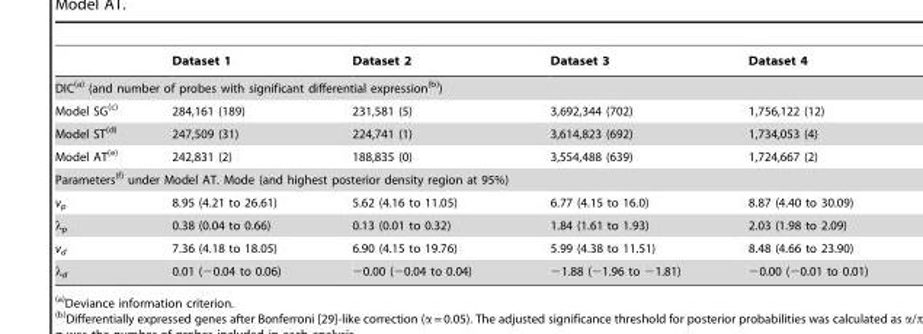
<table><thead><tr><td></td><td>Dataset 1</td><td>Dataset 2</td><td>Dataset 3</td><td>Dataset 4</td></tr></thead><tbody><tr><td colspan="5">DIC(a) (and number of probes with significant differential expression(b))</td></tr><tr><td>Model SG<sup>(c)</sup></td><td>284,161 (189)</td><td>231,581 (5)</td><td>3,692,344 (702)</td><td>1,756,122 (12)</td></tr><tr><td>Model ST<sup>(d)</sup></td><td>247,509 (31)</td><td>224,741 (1)</td><td>3,614,823 (692)</td><td>1,734,053 (4)</td></tr><tr><td>Model AT<sup>(e)</sup></td><td>242,831 (2)</td><td>188,835 (0)</td><td>3,554,488 (639)</td><td>1,724,667 (2)</td></tr><tr><td colspan="5">Parameters(f) under Model AT. Mode (and highest posterior density region at 95%)</td></tr><tr><td>v<sub>p</sub></td><td>8.95 (4.21 to 26.61)</td><td>5.62 (4.16 to 11.05)</td><td>6.77 (4.15 to 16.0)</td><td>8.87 (4.40 to 30.09)</td></tr><tr><td>λ<sub>p</sub></td><td>0.38 (0.04 to 0.66)</td><td>0.13 (0.01 to 0.32)</td><td>1.84 (1.61 to 1.93)</td><td>2.03 (1.98 to 2.09)</td></tr><tr><td>v<sub>d</sub></td><td>7.36 (4.18 to 18.05)</td><td>6.90 (4.15 to 19.76)</td><td>5.99 (4.38 to 11.51)</td><td>8.48 (4.66 to 23.90)</td></tr><tr><td>λ<sub>d</sub></td><td>0.01 (−0.04 to 0.06)</td><td>−0.00 (−0.04 to 0.04)</td><td>−1.88 (−1.96 to −1.81)</td><td>−0.00 (−0.01 to 0.01)</td></tr></tbody></table>